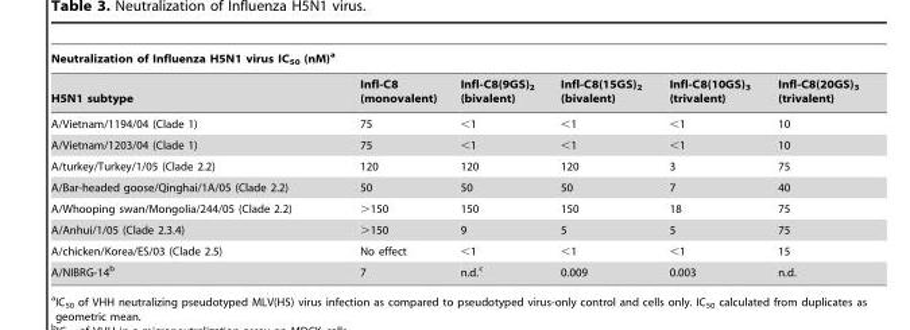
<table><thead><tr><td colspan="6">Neutralization of Influenza H5N1 virus IC<sub>50</sub> (nM)<sup>a</sup></td></tr><tr><td>H5N1 subtype</td><td>Infl-C8 (monovalent)</td><td>Infl-C8(9GS)<sub>2</sub> (bivalent)</td><td>Infl-C8(15GS)<sub>2</sub> (bivalent)</td><td>Infl-C8(10GS)<sub>3</sub> (trivalent)</td><td>Infl-C8(20GS)<sub>3</sub> (trivalent)</td></tr></thead><tbody><tr><td>A/Vietnam/1194/04 (Clade 1)</td><td>75</td><td>&lt;1</td><td>&lt;1</td><td>&lt;1</td><td>10</td></tr><tr><td>A/Vietnam/1203/04 (Clade 1)</td><td>75</td><td>&lt;1</td><td>&lt;1</td><td>&lt;1</td><td>10</td></tr><tr><td>A/turkey/Turkey/1/05 (Clade 2.2)</td><td>120</td><td>120</td><td>120</td><td>3</td><td>75</td></tr><tr><td>A/Bar-headed goose/Qinghai/1A/05 (Clade 2.2)</td><td>50</td><td>50</td><td>50</td><td>7</td><td>40</td></tr><tr><td>A/Whooping swan/Mongolia/244/05 (Clade 2.2)</td><td>&gt;150</td><td>150</td><td>150</td><td>18</td><td>75</td></tr><tr><td>A/Anhui/1/05 (Clade 2.3.4)</td><td>&gt;150</td><td>9</td><td>5</td><td>5</td><td>75</td></tr><tr><td>A/chicken/Korea/ES/03 (Clade 2.5)</td><td>No effect</td><td>&lt;1</td><td>&lt;1</td><td>&lt;1</td><td>15</td></tr><tr><td>A/NIBRG-14<sup>b</sup></td><td>7</td><td>n.d.<sup>c</sup></td><td>0.009</td><td>0.003</td><td>n.d.</td></tr></tbody></table>